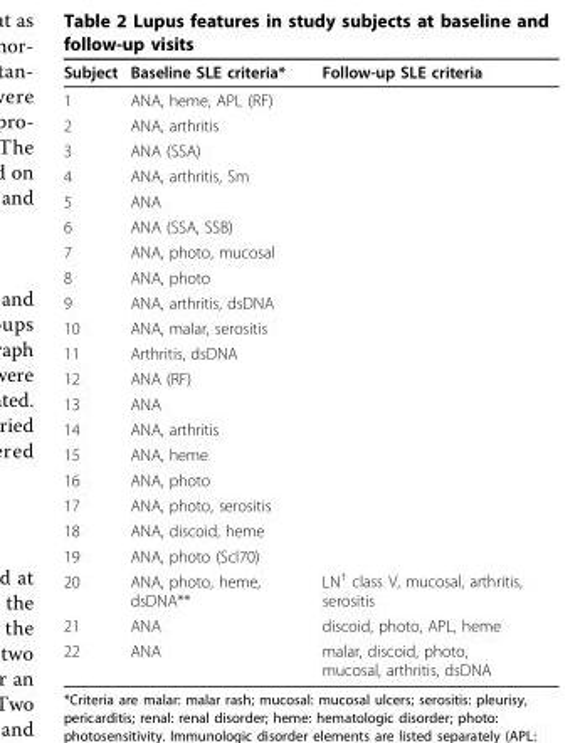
<table><thead><tr><td>Subject</td><td>Baseline SLE criteria*</td><td>Follow-up SLE criteria</td></tr></thead><tbody><tr><td>1</td><td>ANA, heme, APL (RF)</td><td></td></tr><tr><td>2</td><td>ANA, arthritis</td><td></td></tr><tr><td>3</td><td>ANA (SSA)</td><td></td></tr><tr><td>4</td><td>ANA, arthritis, Sm</td><td></td></tr><tr><td>5</td><td>ANA</td><td></td></tr><tr><td>6</td><td>ANA (SSA, SSB)</td><td></td></tr><tr><td>7</td><td>ANA, photo, mucosal</td><td></td></tr><tr><td>8</td><td>ANA, photo</td><td></td></tr><tr><td>9</td><td>ANA, arthritis, dsDNA</td><td></td></tr><tr><td>10</td><td>ANA, malar, serositis</td><td></td></tr><tr><td>11</td><td>Arthritis, dsDNA</td><td></td></tr><tr><td>12</td><td>ANA (RF)</td><td></td></tr><tr><td>13</td><td>ANA</td><td></td></tr><tr><td>14</td><td>ANA, arthritis</td><td></td></tr><tr><td>15</td><td>ANA, heme</td><td></td></tr><tr><td>16</td><td>ANA, photo</td><td></td></tr><tr><td>17</td><td>ANA, photo, serositis</td><td></td></tr><tr><td>18</td><td>ANA, discoid, heme</td><td></td></tr><tr><td>19</td><td>ANA, photo (Scl70)</td><td></td></tr><tr><td>20</td><td>ANA, photo, heme, dsDNA**</td><td>LN<sup>†</sup> class V, mucosal, arthritis, serositis</td></tr><tr><td>21</td><td>ANA</td><td>discoid, photo, APL, heme</td></tr><tr><td>22</td><td>ANA</td><td>malar, discoid, photo, mucosal, arthritis, dsDNA</td></tr></tbody></table>